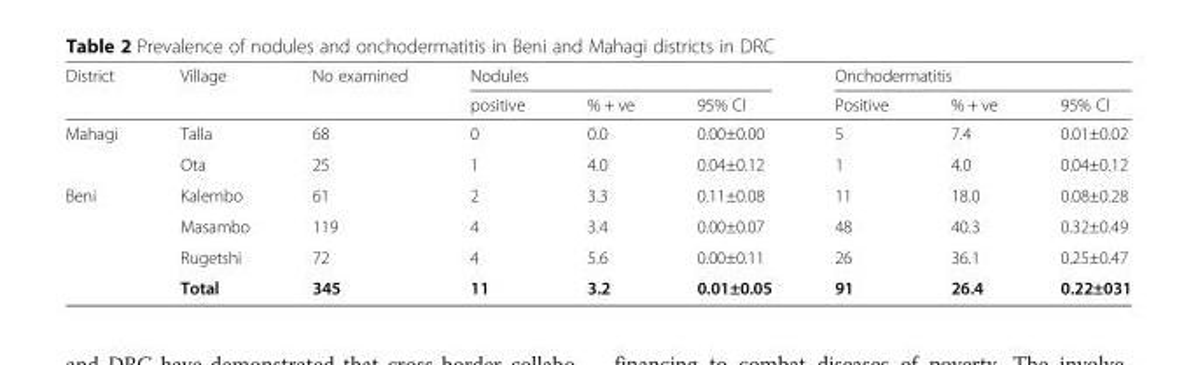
<table><thead><tr><td rowspan="2">District</td><td rowspan="2">Village</td><td rowspan="2">No examined</td><td colspan="3">Nodules</td><td colspan="3">Onchodermatitis</td></tr><tr><td>positive</td><td>% + ve</td><td>95% CI</td><td>Positive</td><td>% + ve</td><td>95% CI</td></tr></thead><tbody><tr><td rowspan="2">Mahagi</td><td>Talla</td><td>68</td><td>0</td><td>0.0</td><td>0.00±0.00</td><td>5</td><td>7.4</td><td>0.01±0.02</td></tr><tr><td>Ota</td><td>25</td><td>1</td><td>4.0</td><td>0.04±0.12</td><td>1</td><td>4.0</td><td>0.04±0.12</td></tr><tr><td rowspan="4">Beni</td><td>Kalembo</td><td>61</td><td>2</td><td>3.3</td><td>0.11±0.08</td><td>11</td><td>18.0</td><td>0.08±0.28</td></tr><tr><td>Masambo</td><td>119</td><td>4</td><td>3.4</td><td>0.00±0.07</td><td>48</td><td>40.3</td><td>0.32±0.49</td></tr><tr><td>Rugetshi</td><td>72</td><td>4</td><td>5.6</td><td>0.00±0.11</td><td>26</td><td>36.1</td><td>0.25±0.47</td></tr><tr><td>Total</td><td>345</td><td>11</td><td>3.2</td><td>0.01±0.05</td><td>91</td><td>26.4</td><td>0.22±031</td></tr></tbody></table>